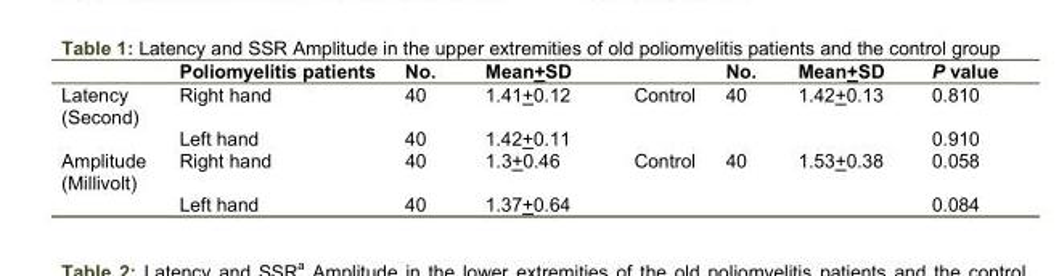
<table><thead><tr><td></td><td>Poliomyelitis patients</td><td>No.</td><td>Mean+SD</td><td></td><td>No.</td><td>Mean+SD</td><td>P value</td></tr></thead><tbody><tr><td rowspan="2">Latency (Second)</td><td>Right hand</td><td>40</td><td>1.41+0.12</td><td rowspan="2">Control</td><td rowspan="2">40</td><td rowspan="2">1.42+0.13</td><td>0.810</td></tr><tr><td>Left hand</td><td>40</td><td>1.42+0.11</td><td>0.910</td></tr><tr><td rowspan="2">Amplitude (Millivolt)</td><td>Right hand</td><td>40</td><td>1.3+0.46</td><td rowspan="2">Control</td><td rowspan="2">40</td><td rowspan="2">1.53+0.38</td><td>0.058</td></tr><tr><td>Left hand</td><td>40</td><td>1.37+0.64</td><td>0.084</td></tr></tbody></table>